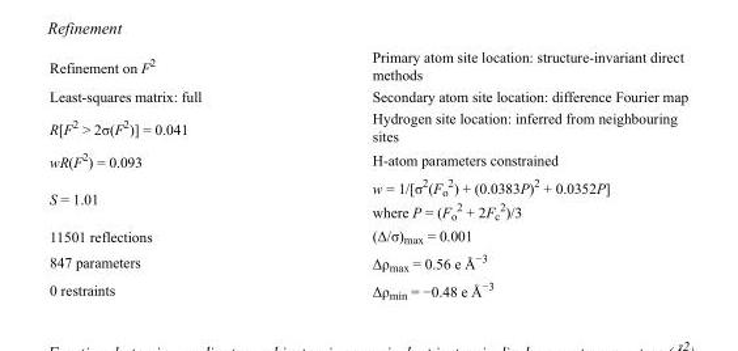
<table><tbody><tr><td>Refinement on F<sup>2</sup></td><td>Primary atom site location: structure-invariant direct methods</td></tr><tr><td>Least-squares matrix: full</td><td>Secondary atom site location: difference Fourier map</td></tr><tr><td>R[F<sup>2</sup> &gt; 2σ(F<sup>2</sup>)] = 0.041</td><td>Hydrogen site location: inferred from neighbouring sites</td></tr><tr><td>wR(F<sup>2</sup>) = 0.093</td><td>H-atom parameters constrained</td></tr><tr><td>S = 1.01</td><td>w = 1/[σ<sup>2</sup>(F<sub>o</sub> <sup>2</sup>) + (0.0383P)<sup>2</sup> + 0.0352P] where P = (F<sub>o</sub> <sup>2</sup> + 2F<sub>c</sub> <sup>2</sup>)/3</td></tr><tr><td>11501 reflections</td><td>(Δ/σ)<sub>max</sub> = 0.001</td></tr><tr><td>847 parameters</td><td>Δρ<sub>max</sub> = 0.56 e Å<sup>−3</sup></td></tr><tr><td>0 restraints</td><td>Δρ<sub>min</sub> = −0.48 e Å<sup>−3</sup></td></tr></tbody></table>